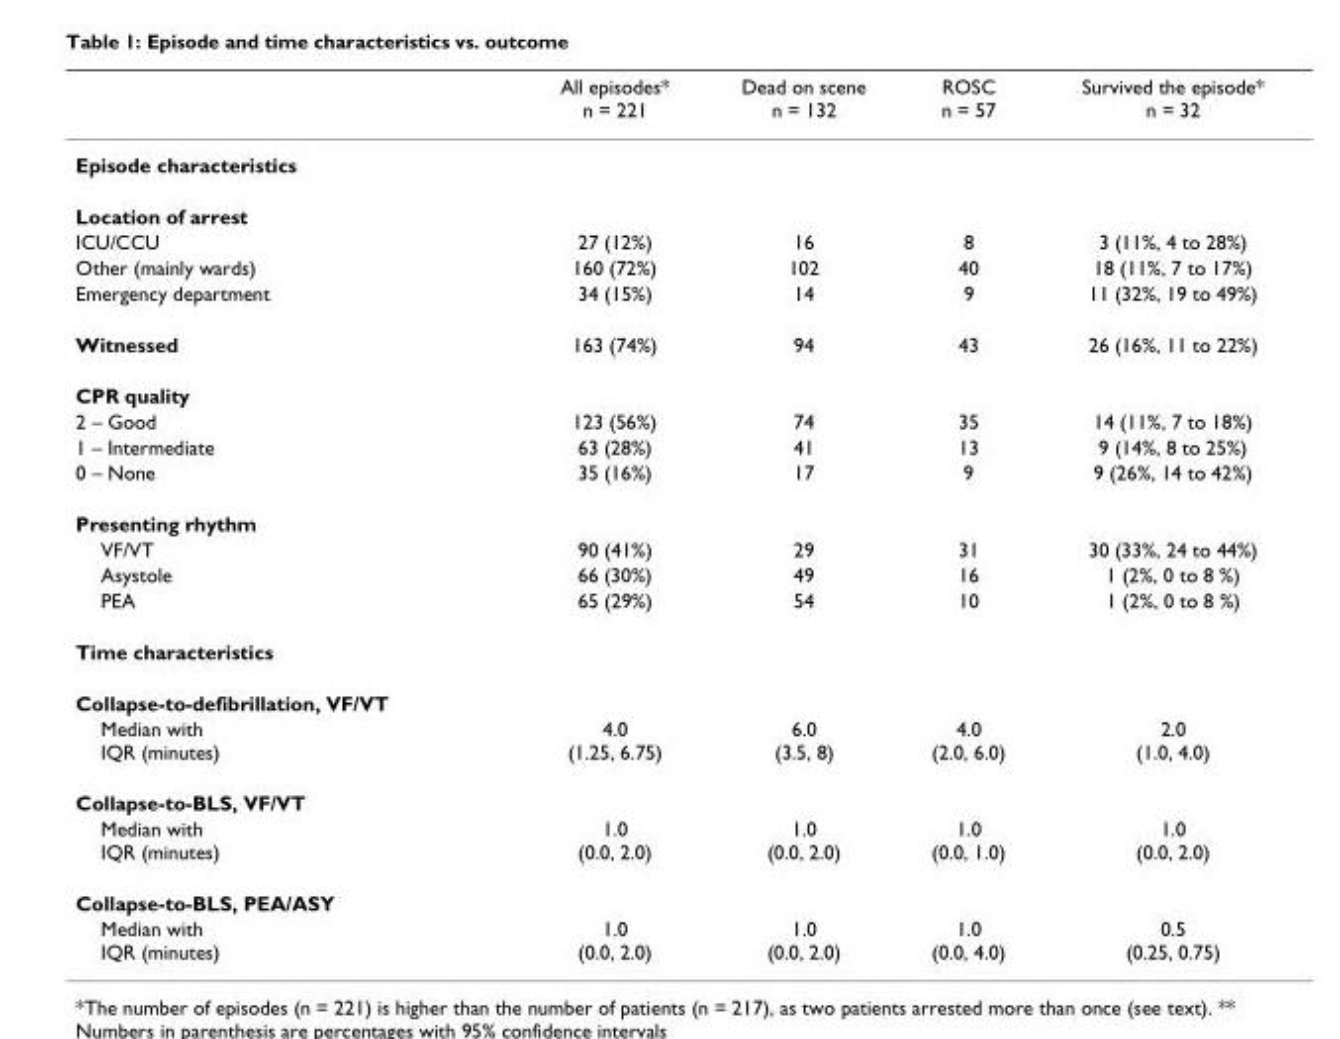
<table><thead><tr><td></td><td>All episodes* n = 221</td><td>Dead on scene n = 132</td><td>ROSC n = 57</td><td>Survived the episode* n = 32</td></tr></thead><tbody><tr><td colspan="5">Episode characteristics</td></tr><tr><td colspan="5">Location of arrest</td></tr><tr><td>ICU/CCU</td><td>27 (12%)</td><td>16</td><td>8</td><td>3 (11%, 4 to 28%)</td></tr><tr><td>Other (mainly wards)</td><td>160 (72%)</td><td>102</td><td>40</td><td>18 (11%, 7 to 17%)</td></tr><tr><td>Emergency department</td><td>34 (15%)</td><td>14</td><td>9</td><td>11 (32%, 19 to 49%)</td></tr><tr><td>Witnessed</td><td>163 (74%)</td><td>94</td><td>43</td><td>26 (16%, 11 to 22%)</td></tr><tr><td colspan="5">CPR quality</td></tr><tr><td>2 – Good</td><td>123 (56%)</td><td>74</td><td>35</td><td>14 (11%, 7 to 18%)</td></tr><tr><td>1 – Intermediate</td><td>63 (28%)</td><td>41</td><td>13</td><td>9 (14%, 8 to 25%)</td></tr><tr><td>0 – None</td><td>35 (16%)</td><td>17</td><td>9</td><td>9 (26%, 14 to 42%)</td></tr><tr><td colspan="5">Presenting rhythm</td></tr><tr><td>VF/VT</td><td>90 (41%)</td><td>29</td><td>31</td><td>30 (33%, 24 to 44%)</td></tr><tr><td>Asystole</td><td>66 (30%)</td><td>49</td><td>16</td><td>1 (2%, 0 to 8 %)</td></tr><tr><td>PEA</td><td>65 (29%)</td><td>54</td><td>10</td><td>1 (2%, 0 to 8 %)</td></tr><tr><td colspan="5">Time characteristics</td></tr><tr><td colspan="5">Collapse-to-defibrillation, VF/VT</td></tr><tr><td>Median with IQR (minutes)</td><td>4.0 (1.25, 6.75)</td><td>6.0 (3.5, 8)</td><td>4.0 (2.0, 6.0)</td><td>2.0 (1.0, 4.0)</td></tr><tr><td colspan="5">Collapse-to-BLS, VF/VT</td></tr><tr><td>Median with IQR (minutes)</td><td>1.0 (0.0, 2.0)</td><td>1.0 (0.0, 2.0)</td><td>1.0 (0.0, 1.0)</td><td>1.0 (0.0, 2.0)</td></tr><tr><td colspan="5">Collapse-to-BLS, PEA/ASY</td></tr><tr><td>Median with IQR (minutes)</td><td>1.0 (0.0, 2.0)</td><td>1.0 (0.0, 2.0)</td><td>1.0 (0.0, 4.0)</td><td>0.5 (0.25, 0.75)</td></tr></tbody></table>